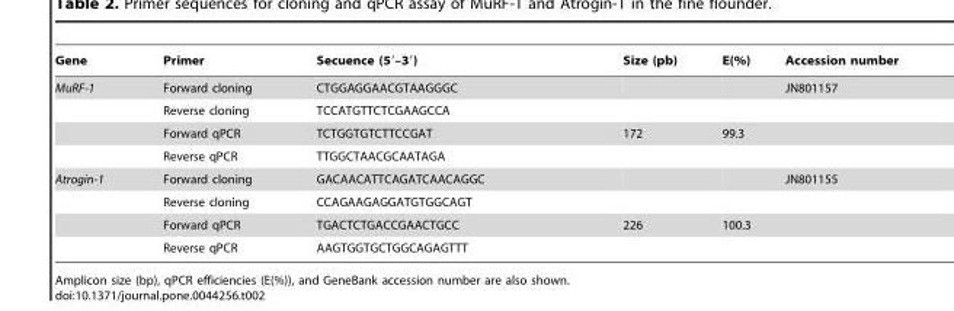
<table><thead><tr><td>Gene</td><td>Primer</td><td>Secuence (5′–3′)</td><td>Size (pb)</td><td>E(%)</td><td>Accession number</td></tr></thead><tbody><tr><td rowspan="4">MuRF-1</td><td>Forward cloning</td><td>CTGGAGGAACGTAAGGGC</td><td></td><td></td><td>JN801157</td></tr><tr><td>Reverse cloning</td><td>TCCATGTTCTCGAAGCCA</td><td></td><td></td><td></td></tr><tr><td>Forward qPCR</td><td>TCTGGTGTCTTCCGAT</td><td>172</td><td>99.3</td><td></td></tr><tr><td>Reverse qPCR</td><td>TTGGCTAACGCAATAGA</td><td></td><td></td><td></td></tr><tr><td rowspan="4">Atrogin-1</td><td>Forward cloning</td><td>GACAACATTCAGATCAACAGGC</td><td></td><td></td><td>JN801155</td></tr><tr><td>Reverse cloning</td><td>CCAGAAGAGGATGTGGCAGT</td><td></td><td></td><td></td></tr><tr><td>Forward qPCR</td><td>TGACTCTGACCGAACTGCC</td><td>226</td><td>100.3</td><td></td></tr><tr><td>Reverse qPCR</td><td>AAGTGGTGCTGGCAGAGTTT</td><td></td><td></td><td></td></tr></tbody></table>